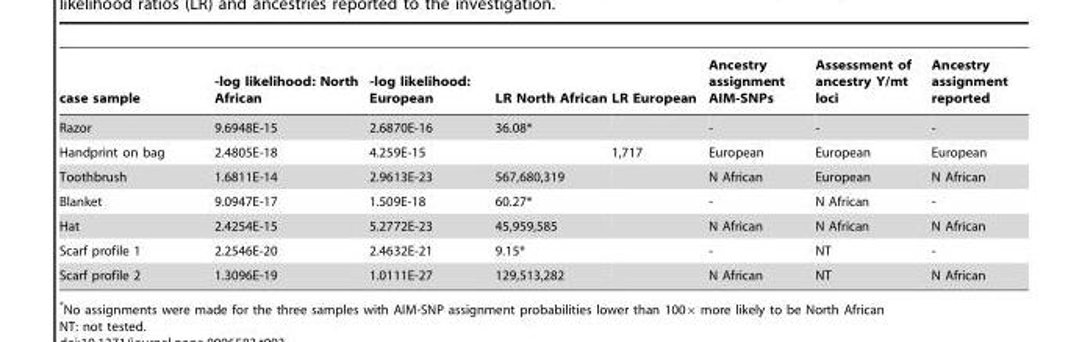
<table><thead><tr><td>case sample</td><td>-log likelihood: North African</td><td>-log likelihood: European</td><td>LR North African</td><td>LR European</td><td>Ancestry assignment AIM-SNPs</td><td>Assessment of ancestry Y/mt loci</td><td>Ancestry assignment reported</td></tr></thead><tbody><tr><td>Razor</td><td>9.6948E-15</td><td>2.6870E-16</td><td>36.08*</td><td></td><td>-</td><td>-</td><td>-</td></tr><tr><td>Handprint on bag</td><td>2.4805E-18</td><td>4.259E-15</td><td></td><td>1,717</td><td>European</td><td>European</td><td>European</td></tr><tr><td>Toothbrush</td><td>1.6811E-14</td><td>2.9613E-23</td><td>567,680,319</td><td></td><td>N African</td><td>European</td><td>N African</td></tr><tr><td>Blanket</td><td>9.0947E-17</td><td>1.509E-18</td><td>60.27*</td><td></td><td>-</td><td>N African</td><td>-</td></tr><tr><td>Hat</td><td>2.4254E-15</td><td>5.2772E-23</td><td>45,959,585</td><td></td><td>N African</td><td>N African</td><td>N African</td></tr><tr><td>Scarf profile 1</td><td>2.2546E-20</td><td>2.4632E-21</td><td>9.15*</td><td></td><td>-</td><td>NT</td><td>-</td></tr><tr><td>Scarf profile 2</td><td>1.3096E-19</td><td>1.0111E-27</td><td>129,513,282</td><td></td><td>N African</td><td>NT</td><td>N African</td></tr></tbody></table>